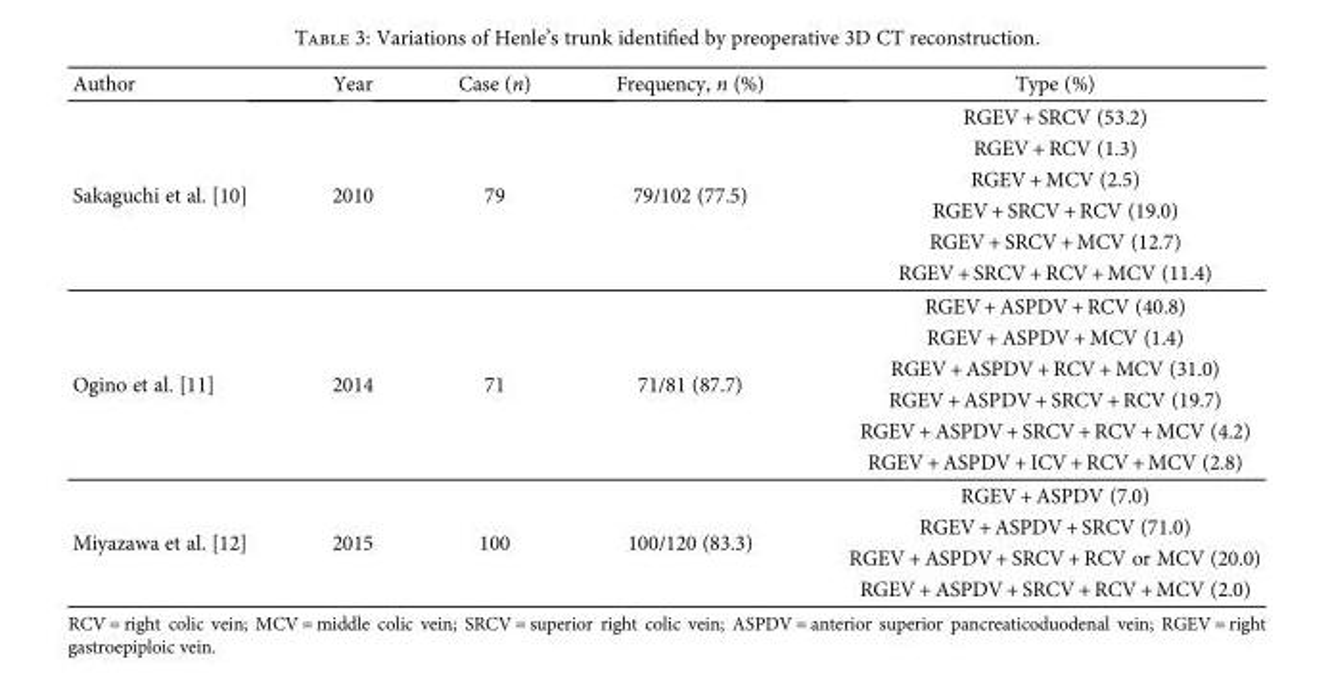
<table><thead><tr><td>Author</td><td>Year</td><td>Case (n)</td><td>Frequency, n (%)</td><td>Type (%)</td></tr></thead><tbody><tr><td rowspan="6">Sakaguchi et al. [10]</td><td rowspan="6">2010</td><td rowspan="6">79</td><td rowspan="6">79/102 (77.5)</td><td>RGEV + SRCV (53.2)</td></tr><tr><td>RGEV + RCV (1.3)</td></tr><tr><td>RGEV + MCV (2.5)</td></tr><tr><td>RGEV + SRCV + RCV (19.0)</td></tr><tr><td>RGEV + SRCV + MCV (12.7)</td></tr><tr><td>RGEV + SRCV + RCV + MCV (11.4)</td></tr><tr><td rowspan="6">Ogino et al. [11]</td><td rowspan="6">2014</td><td rowspan="6">71</td><td rowspan="6">71/81 (87.7)</td><td>RGEV + ASPDV + RCV (40.8)</td></tr><tr><td>RGEV + ASPDV + MCV (1.4)</td></tr><tr><td>RGEV + ASPDV + RCV + MCV (31.0)</td></tr><tr><td>RGEV + ASPDV + SRCV + RCV (19.7)</td></tr><tr><td>RGEV + ASPDV + SRCV + RCV + MCV (4.2)</td></tr><tr><td>RGEV + ASPDV + ICV + RCV + MCV (2.8)</td></tr><tr><td rowspan="4">Miyazawa et al. [12]</td><td rowspan="4">2015</td><td rowspan="4">100</td><td rowspan="4">100/120 (83.3)</td><td>RGEV + ASPDV (7.0)</td></tr><tr><td>RGEV + ASPDV + SRCV (71.0)</td></tr><tr><td>RGEV + ASPDV + SRCV + RCV or MCV (20.0)</td></tr><tr><td>RGEV + ASPDV + SRCV + RCV + MCV (2.0)</td></tr></tbody></table>